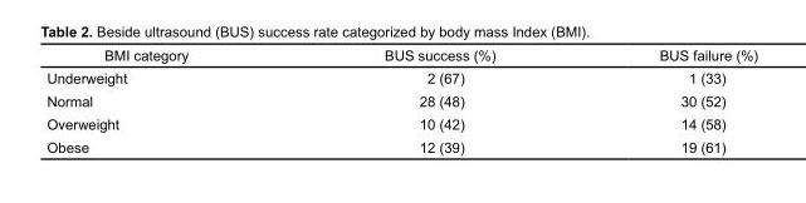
<table><thead><tr><td>BMI category</td><td>BUS success (%)</td><td>BUS failure (%)</td></tr></thead><tbody><tr><td>Underweight</td><td>2 (67)</td><td>1 (33)</td></tr><tr><td>Normal</td><td>28 (48)</td><td>30 (52)</td></tr><tr><td>Overweight</td><td>10 (42)</td><td>14 (58)</td></tr><tr><td>Obese</td><td>12 (39)</td><td>19 (61)</td></tr></tbody></table>